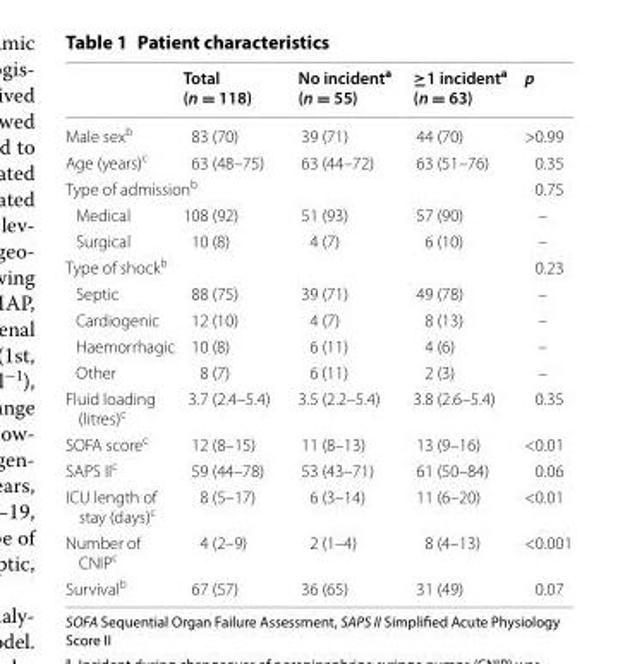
<table><thead><tr><td></td><td>Total (n = 118)</td><td>No incident<sup>a</sup> (n = 55)</td><td>≥1 incident<sup>a</sup> (n = 63)</td><td>p</td></tr></thead><tbody><tr><td>Male sex<sup>b</sup></td><td>83 (70)</td><td>39 (71)</td><td>44 (70)</td><td>&gt;0.99</td></tr><tr><td>Age (years)<sup>c</sup></td><td>63 (48–75)</td><td>63 (44–72)</td><td>63 (51–76)</td><td>0.35</td></tr><tr><td colspan="4">Type of admission<sup>b</sup></td><td>0.75</td></tr><tr><td>Medical</td><td>108 (92)</td><td>51 (93)</td><td>57 (90)</td><td>–</td></tr><tr><td>Surgical</td><td>10 (8)</td><td>4 (7)</td><td>6 (10)</td><td>–</td></tr><tr><td colspan="4">Type of shock<sup>b</sup></td><td>0.23</td></tr><tr><td>Septic</td><td>88 (75)</td><td>39 (71)</td><td>49 (78)</td><td>–</td></tr><tr><td>Cardiogenic</td><td>12 (10)</td><td>4 (7)</td><td>8 (13)</td><td>–</td></tr><tr><td>Haemorrhagic</td><td>10 (8)</td><td>6 (11)</td><td>4 (6)</td><td>–</td></tr><tr><td>Other</td><td>8 (7)</td><td>6 (11)</td><td>2 (3)</td><td>–</td></tr><tr><td>Fluid loading (litres)<sup>c</sup></td><td>3.7 (2.4–5.4)</td><td>3.5 (2.2–5.4)</td><td>3.8 (2.6–5.4)</td><td>0.35</td></tr><tr><td>SOFA score<sup>c</sup></td><td>12 (8–15)</td><td>11 (8–13)</td><td>13 (9–16)</td><td>&lt;0.01</td></tr><tr><td>SAPS II<sup>c</sup></td><td>59 (44–78)</td><td>53 (43–71)</td><td>61 (50–84)</td><td>0.06</td></tr><tr><td>ICU length of stay (days)<sup>c</sup></td><td>8 (5–17)</td><td>6 (3–14)</td><td>11 (6–20)</td><td>&lt;0.01</td></tr><tr><td>Number of CNIP<sup>c</sup></td><td>4 (2–9)</td><td>2 (1–4)</td><td>8 (4–13)</td><td>&lt;0.001</td></tr><tr><td>Survival<sup>b</sup></td><td>67 (57)</td><td>36 (65)</td><td>31 (49)</td><td>0.07</td></tr></tbody></table>